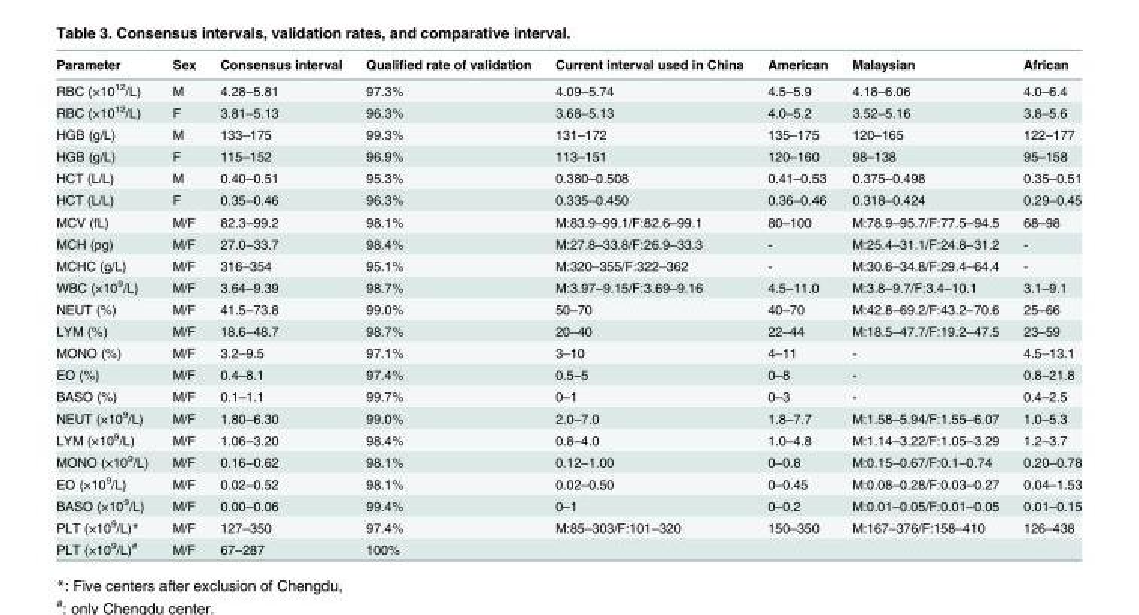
<table><thead><tr><td>Parameter</td><td>Sex</td><td>Consensus interval</td><td>Qualified rate of validation</td><td>Current interval used in China</td><td>American</td><td>Malaysian</td><td>African</td></tr></thead><tbody><tr><td>RBC (×10<sup>12</sup>/L)</td><td>M</td><td>4.28–5.81</td><td>97.3%</td><td>4.09–5.74</td><td>4.5–5.9</td><td>4.18–6.06</td><td>4.0–6.4</td></tr><tr><td>RBC (×10<sup>12</sup>/L)</td><td>F</td><td>3.81–5.13</td><td>96.3%</td><td>3.68–5.13</td><td>4.0–5.2</td><td>3.52–5.16</td><td>3.8–5.6</td></tr><tr><td>HGB (g/L)</td><td>M</td><td>133–175</td><td>99.3%</td><td>131–172</td><td>135–175</td><td>120–165</td><td>122–177</td></tr><tr><td>HGB (g/L)</td><td>F</td><td>115–152</td><td>96.9%</td><td>113–151</td><td>120–160</td><td>98–138</td><td>95–158</td></tr><tr><td>HCT (L/L)</td><td>M</td><td>0.40–0.51</td><td>95.3%</td><td>0.380–0.508</td><td>0.41–0.53</td><td>0.375–0.498</td><td>0.35–0.51</td></tr><tr><td>HCT (L/L)</td><td>F</td><td>0.35–0.46</td><td>96.3%</td><td>0.335–0.450</td><td>0.36–0.46</td><td>0.318–0.424</td><td>0.29–0.45</td></tr><tr><td>MCV (fL)</td><td>M/F</td><td>82.3–99.2</td><td>98.1%</td><td>M:83.9–99.1/F:82.6–99.1</td><td>80–100</td><td>M:78.9–95.7/F:77.5–94.5</td><td>68–98</td></tr><tr><td>MCH (pg)</td><td>M/F</td><td>27.0–33.7</td><td>98.4%</td><td>M:27.8–33.8/F:26.9–33.3</td><td>-</td><td>M:25.4–31.1/F:24.8–31.2</td><td>-</td></tr><tr><td>MCHC (g/L)</td><td>M/F</td><td>316–354</td><td>95.1%</td><td>M:320–355/F:322–362</td><td>-</td><td>M:30.6–34.8/F:29.4–64.4</td><td>-</td></tr><tr><td>WBC (×10<sup>9</sup>/L)</td><td>M/F</td><td>3.64–9.39</td><td>98.7%</td><td>M:3.97–9.15/F:3.69–9.16</td><td>4.5–11.0</td><td>M:3.8–9.7/F:3.4–10.1</td><td>3.1–9.1</td></tr><tr><td>NEUT (%)</td><td>M/F</td><td>41.5–73.8</td><td>99.0%</td><td>50–70</td><td>40–70</td><td>M:42.8–69.2/F:43.2–70.6</td><td>25–66</td></tr><tr><td>LYM (%)</td><td>M/F</td><td>18.6–48.7</td><td>98.7%</td><td>20–40</td><td>22–44</td><td>M:18.5–47.7/F:19.2–47.5</td><td>23–59</td></tr><tr><td>MONO (%)</td><td>M/F</td><td>3.2–9.5</td><td>97.1%</td><td>3–10</td><td>4–11</td><td>-</td><td>4.5–13.1</td></tr><tr><td>EO (%)</td><td>M/F</td><td>0.4–8.1</td><td>97.4%</td><td>0.5–5</td><td>0–8</td><td>-</td><td>0.8–21.8</td></tr><tr><td>BASO (%)</td><td>M/F</td><td>0.1–1.1</td><td>99.7%</td><td>0–1</td><td>0–3</td><td>-</td><td>0.4–2.5</td></tr><tr><td>NEUT (×10<sup>9</sup>/L)</td><td>M/F</td><td>1.80–6.30</td><td>99.0%</td><td>2.0–7.0</td><td>1.8–7.7</td><td>M:1.58–5.94/F:1.55–6.07</td><td>1.0–5.3</td></tr><tr><td>LYM (×10<sup>9</sup>/L)</td><td>M/F</td><td>1.06–3.20</td><td>98.4%</td><td>0.8–4.0</td><td>1.0–4.8</td><td>M:1.14–3.22/F:1.05–3.29</td><td>1.2–3.7</td></tr><tr><td>MONO (×10<sup>9</sup>/L)</td><td>M/F</td><td>0.16–0.62</td><td>98.1%</td><td>0.12–1.00</td><td>0–0.8</td><td>M:0.15–0.67/F:0.1–0.74</td><td>0.20–0.78</td></tr><tr><td>EO (×10<sup>9</sup>/L)</td><td>M/F</td><td>0.02–0.52</td><td>98.1%</td><td>0.02–0.50</td><td>0–0.45</td><td>M:0.08–0.28/F:0.03–0.27</td><td>0.04–1.53</td></tr><tr><td>BASO (×10<sup>9</sup>/L)</td><td>M/F</td><td>0.00–0.06</td><td>99.4%</td><td>0–1</td><td>0–0.2</td><td>M:0.01–0.05/F:0.01–0.05</td><td>0.01–0.15</td></tr><tr><td>PLT (×10<sup>9</sup>/L)*</td><td>M/F</td><td>127–350</td><td>97.4%</td><td>M:85–303/F:101–320</td><td>150–350</td><td>M:167–376/F:158–410</td><td>126–438</td></tr><tr><td>PLT (×10<sup>9</sup>/L)<sup>#</sup></td><td>M/F</td><td>67–287</td><td>100%</td><td></td><td></td><td></td><td></td></tr></tbody></table>